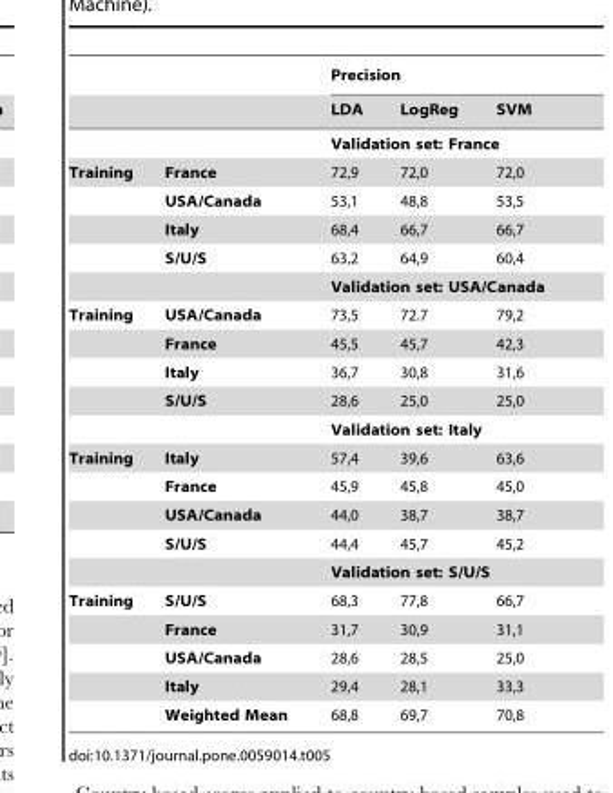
<table><thead><tr><td rowspan="2"></td><td rowspan="2"></td><td colspan="3">Precision</td></tr><tr><td>LDA</td><td>LogReg</td><td>SVM</td></tr></thead><tbody><tr><td></td><td></td><td colspan="3">Validation set: France</td></tr><tr><td rowspan="5">Training</td><td>France</td><td>72,9</td><td>72,0</td><td>72,0</td></tr><tr><td>USA/Canada</td><td>53,1</td><td>48,8</td><td>53,5</td></tr><tr><td>Italy</td><td>68,4</td><td>66,7</td><td>66,7</td></tr><tr><td>S/U/S</td><td>63,2</td><td>64,9</td><td>60,4</td></tr><tr><td></td><td colspan="3">Validation set: USA/Canada</td></tr><tr><td rowspan="5">Training</td><td>USA/Canada</td><td>73,5</td><td>72.7</td><td>79,2</td></tr><tr><td>France</td><td>45,5</td><td>45,7</td><td>42,3</td></tr><tr><td>Italy</td><td>36,7</td><td>30,8</td><td>31,6</td></tr><tr><td>S/U/S</td><td>28,6</td><td>25,0</td><td>25,0</td></tr><tr><td></td><td colspan="3">Validation set: Italy</td></tr><tr><td rowspan="5">Training</td><td>Italy</td><td>57,4</td><td>39,6</td><td>63,6</td></tr><tr><td>France</td><td>45,9</td><td>45,8</td><td>45,0</td></tr><tr><td>USA/Canada</td><td>44,0</td><td>38,7</td><td>38,7</td></tr><tr><td>S/U/S</td><td>44,4</td><td>45,7</td><td>45,2</td></tr><tr><td></td><td colspan="3">Validation set: S/U/S</td></tr><tr><td rowspan="5">Training</td><td>S/U/S</td><td>68,3</td><td>77,8</td><td>66,7</td></tr><tr><td>France</td><td>31,7</td><td>30,9</td><td>31,1</td></tr><tr><td>USA/Canada</td><td>28,6</td><td>28,5</td><td>25,0</td></tr><tr><td>Italy</td><td>29,4</td><td>28,1</td><td>33,3</td></tr><tr><td>Weighted Mean</td><td>68,8</td><td>69,7</td><td>70,8</td></tr></tbody></table>